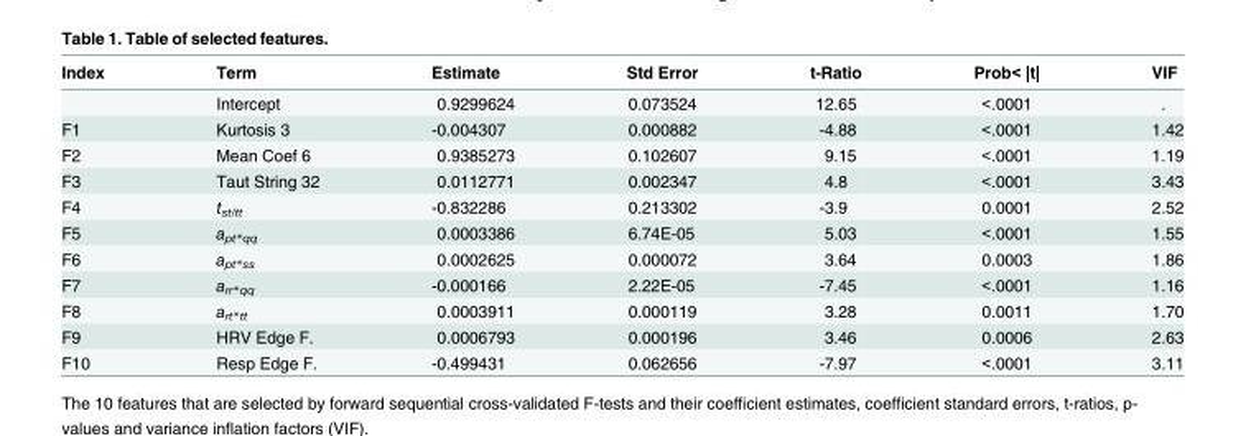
<table><thead><tr><td>Index</td><td>Term</td><td>Estimate</td><td>Std Error</td><td>t-Ratio</td><td>Prob&lt; |t|</td><td>VIF</td></tr></thead><tbody><tr><td></td><td>Intercept</td><td>0.9299624</td><td>0.073524</td><td>12.65</td><td>&lt;.0001</td><td>.</td></tr><tr><td>F1</td><td>Kurtosis 3</td><td>-0.004307</td><td>0.000882</td><td>-4.88</td><td>&lt;.0001</td><td>1.42</td></tr><tr><td>F2</td><td>Mean Coef 6</td><td>0.9385273</td><td>0.102607</td><td>9.15</td><td>&lt;.0001</td><td>1.19</td></tr><tr><td>F3</td><td>Taut String 32</td><td>0.0112771</td><td>0.002347</td><td>4.8</td><td>&lt;.0001</td><td>3.43</td></tr><tr><td>F4</td><td>t<sub>st/tt</sub></td><td>-0.832286</td><td>0.213302</td><td>-3.9</td><td>0.0001</td><td>2.52</td></tr><tr><td>F5</td><td>a<sub>pt*qq</sub></td><td>0.0003386</td><td>6.74E-05</td><td>5.03</td><td>&lt;.0001</td><td>1.55</td></tr><tr><td>F6</td><td>a<sub>pt*ss</sub></td><td>0.0002625</td><td>0.000072</td><td>3.64</td><td>0.0003</td><td>1.86</td></tr><tr><td>F7</td><td>a<sub>rr*qq</sub></td><td>-0.000166</td><td>2.22E-05</td><td>-7.45</td><td>&lt;.0001</td><td>1.16</td></tr><tr><td>F8</td><td>a<sub>rt*tt</sub></td><td>0.0003911</td><td>0.000119</td><td>3.28</td><td>0.0011</td><td>1.70</td></tr><tr><td>F9</td><td>HRV Edge F.</td><td>0.0006793</td><td>0.000196</td><td>3.46</td><td>0.0006</td><td>2.63</td></tr><tr><td>F10</td><td>Resp Edge F.</td><td>-0.499431</td><td>0.062656</td><td>-7.97</td><td>&lt;.0001</td><td>3.11</td></tr></tbody></table>